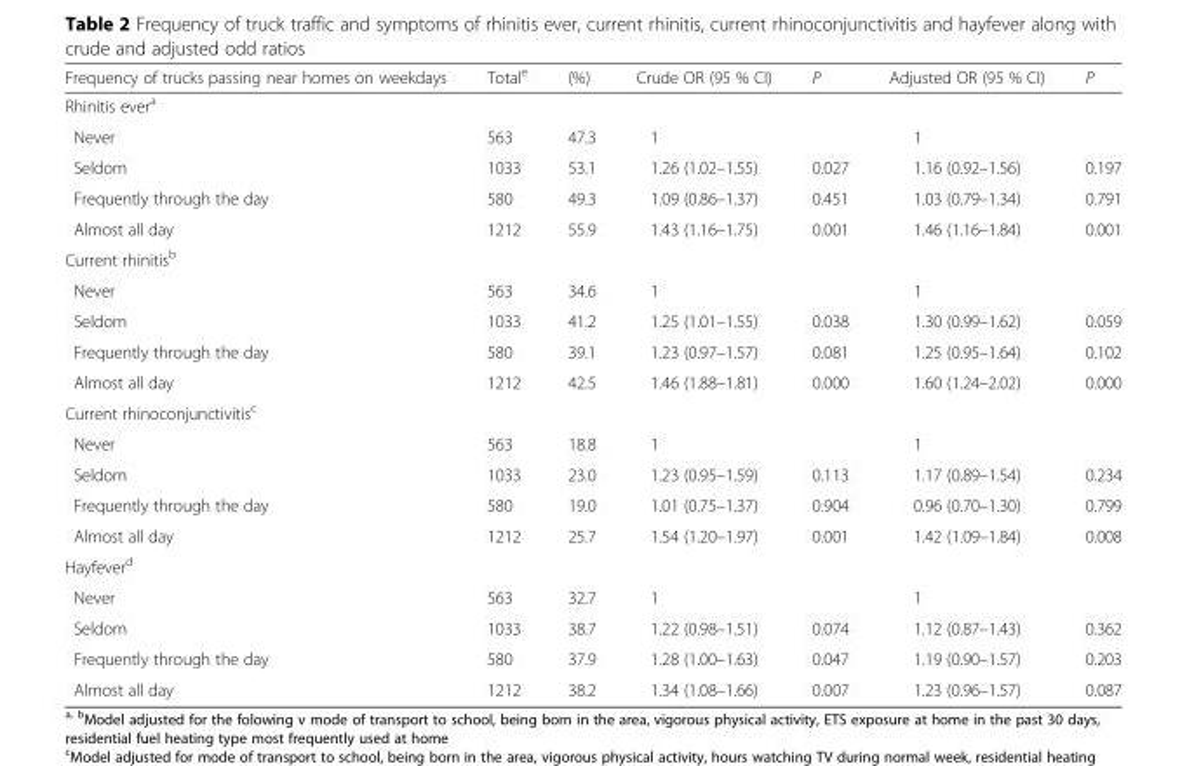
<table><thead><tr><td>Frequency of trucks passing near homes on weekdays</td><td>Total<sup>e</sup></td><td>(%)</td><td>Crude OR (95 % CI)</td><td>P</td><td>Adjusted OR (95 % CI)</td><td>P</td></tr></thead><tbody><tr><td colspan="7">Rhinitis ever<sup>a</sup></td></tr><tr><td>Never</td><td>563</td><td>47.3</td><td>1</td><td></td><td>1</td><td></td></tr><tr><td>Seldom</td><td>1033</td><td>53.1</td><td>1.26 (1.02–1.55)</td><td>0.027</td><td>1.16 (0.92–1.56)</td><td>0.197</td></tr><tr><td>Frequently through the day</td><td>580</td><td>49.3</td><td>1.09 (0.86–1.37)</td><td>0.451</td><td>1.03 (0.79–1.34)</td><td>0.791</td></tr><tr><td>Almost all day</td><td>1212</td><td>55.9</td><td>1.43 (1.16–1.75)</td><td>0.001</td><td>1.46 (1.16–1.84)</td><td>0.001</td></tr><tr><td colspan="7">Current rhinitis<sup>b</sup></td></tr><tr><td>Never</td><td>563</td><td>34.6</td><td>1</td><td></td><td>1</td><td></td></tr><tr><td>Seldom</td><td>1033</td><td>41.2</td><td>1.25 (1.01–1.55)</td><td>0.038</td><td>1.30 (0.99–1.62)</td><td>0.059</td></tr><tr><td>Frequently through the day</td><td>580</td><td>39.1</td><td>1.23 (0.97–1.57)</td><td>0.081</td><td>1.25 (0.95–1.64)</td><td>0.102</td></tr><tr><td>Almost all day</td><td>1212</td><td>42.5</td><td>1.46 (1.88–1.81)</td><td>0.000</td><td>1.60 (1.24–2.02)</td><td>0.000</td></tr><tr><td colspan="7">Current rhinoconjunctivitis<sup>c</sup></td></tr><tr><td>Never</td><td>563</td><td>18.8</td><td>1</td><td></td><td>1</td><td></td></tr><tr><td>Seldom</td><td>1033</td><td>23.0</td><td>1.23 (0.95–1.59)</td><td>0.113</td><td>1.17 (0.89–1.54)</td><td>0.234</td></tr><tr><td>Frequently through the day</td><td>580</td><td>19.0</td><td>1.01 (0.75–1.37)</td><td>0.904</td><td>0.96 (0.70–1.30)</td><td>0.799</td></tr><tr><td>Almost all day</td><td>1212</td><td>25.7</td><td>1.54 (1.20–1.97)</td><td>0.001</td><td>1.42 (1.09–1.84)</td><td>0.008</td></tr><tr><td colspan="7">Hayfever<sup>d</sup></td></tr><tr><td>Never</td><td>563</td><td>32.7</td><td>1</td><td></td><td>1</td><td></td></tr><tr><td>Seldom</td><td>1033</td><td>38.7</td><td>1.22 (0.98–1.51)</td><td>0.074</td><td>1.12 (0.87–1.43)</td><td>0.362</td></tr><tr><td>Frequently through the day</td><td>580</td><td>37.9</td><td>1.28 (1.00–1.63)</td><td>0.047</td><td>1.19 (0.90–1.57)</td><td>0.203</td></tr><tr><td>Almost all day</td><td>1212</td><td>38.2</td><td>1.34 (1.08–1.66)</td><td>0.007</td><td>1.23 (0.96–1.57)</td><td>0.087</td></tr></tbody></table>